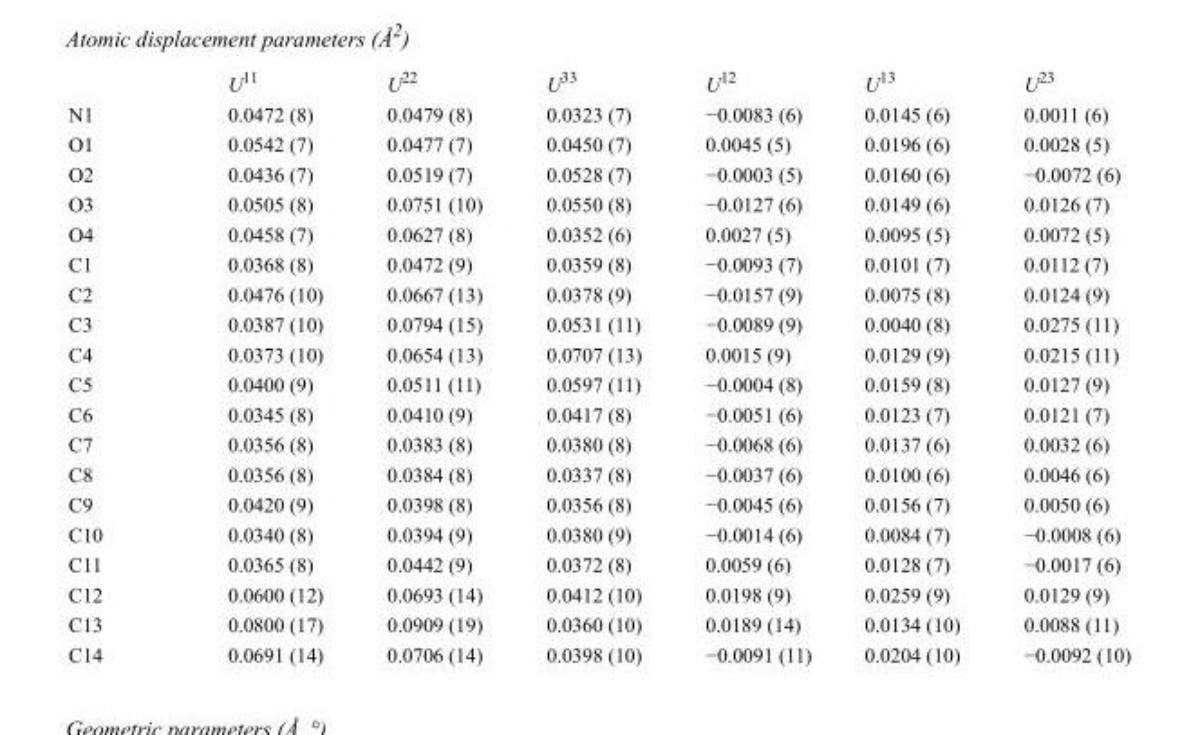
<table><thead><tr><td></td><td>U<sup>11</sup></td><td>U<sup>22</sup></td><td>U<sup>33</sup></td><td>U<sup>12</sup></td><td>U<sup>13</sup></td><td>U<sup>23</sup></td></tr></thead><tbody><tr><td>N1</td><td>0.0472 (8)</td><td>0.0479 (8)</td><td>0.0323 (7)</td><td>−0.0083 (6)</td><td>0.0145 (6)</td><td>0.0011 (6)</td></tr><tr><td>O1</td><td>0.0542 (7)</td><td>0.0477 (7)</td><td>0.0450 (7)</td><td>0.0045 (5)</td><td>0.0196 (6)</td><td>0.0028 (5)</td></tr><tr><td>O2</td><td>0.0436 (7)</td><td>0.0519 (7)</td><td>0.0528 (7)</td><td>−0.0003 (5)</td><td>0.0160 (6)</td><td>−0.0072 (6)</td></tr><tr><td>O3</td><td>0.0505 (8)</td><td>0.0751 (10)</td><td>0.0550 (8)</td><td>−0.0127 (6)</td><td>0.0149 (6)</td><td>0.0126 (7)</td></tr><tr><td>O4</td><td>0.0458 (7)</td><td>0.0627 (8)</td><td>0.0352 (6)</td><td>0.0027 (5)</td><td>0.0095 (5)</td><td>0.0072 (5)</td></tr><tr><td>C1</td><td>0.0368 (8)</td><td>0.0472 (9)</td><td>0.0359 (8)</td><td>−0.0093 (7)</td><td>0.0101 (7)</td><td>0.0112 (7)</td></tr><tr><td>C2</td><td>0.0476 (10)</td><td>0.0667 (13)</td><td>0.0378 (9)</td><td>−0.0157 (9)</td><td>0.0075 (8)</td><td>0.0124 (9)</td></tr><tr><td>C3</td><td>0.0387 (10)</td><td>0.0794 (15)</td><td>0.0531 (11)</td><td>−0.0089 (9)</td><td>0.0040 (8)</td><td>0.0275 (11)</td></tr><tr><td>C4</td><td>0.0373 (10)</td><td>0.0654 (13)</td><td>0.0707 (13)</td><td>0.0015 (9)</td><td>0.0129 (9)</td><td>0.0215 (11)</td></tr><tr><td>C5</td><td>0.0400 (9)</td><td>0.0511 (11)</td><td>0.0597 (11)</td><td>−0.0004 (8)</td><td>0.0159 (8)</td><td>0.0127 (9)</td></tr><tr><td>C6</td><td>0.0345 (8)</td><td>0.0410 (9)</td><td>0.0417 (8)</td><td>−0.0051 (6)</td><td>0.0123 (7)</td><td>0.0121 (7)</td></tr><tr><td>C7</td><td>0.0356 (8)</td><td>0.0383 (8)</td><td>0.0380 (8)</td><td>−0.0068 (6)</td><td>0.0137 (6)</td><td>0.0032 (6)</td></tr><tr><td>C8</td><td>0.0356 (8)</td><td>0.0384 (8)</td><td>0.0337 (8)</td><td>−0.0037 (6)</td><td>0.0100 (6)</td><td>0.0046 (6)</td></tr><tr><td>C9</td><td>0.0420 (9)</td><td>0.0398 (8)</td><td>0.0356 (8)</td><td>−0.0045 (6)</td><td>0.0156 (7)</td><td>0.0050 (6)</td></tr><tr><td>C10</td><td>0.0340 (8)</td><td>0.0394 (9)</td><td>0.0380 (9)</td><td>−0.0014 (6)</td><td>0.0084 (7)</td><td>−0.0008 (6)</td></tr><tr><td>C11</td><td>0.0365 (8)</td><td>0.0442 (9)</td><td>0.0372 (8)</td><td>0.0059 (6)</td><td>0.0128 (7)</td><td>−0.0017 (6)</td></tr><tr><td>C12</td><td>0.0600 (12)</td><td>0.0693 (14)</td><td>0.0412 (10)</td><td>0.0198 (9)</td><td>0.0259 (9)</td><td>0.0129 (9)</td></tr><tr><td>C13</td><td>0.0800 (17)</td><td>0.0909 (19)</td><td>0.0360 (10)</td><td>0.0189 (14)</td><td>0.0134 (10)</td><td>0.0088 (11)</td></tr><tr><td>C14</td><td>0.0691 (14)</td><td>0.0706 (14)</td><td>0.0398 (10)</td><td>−0.0091 (11)</td><td>0.0204 (10)</td><td>−0.0092 (10)</td></tr></tbody></table>